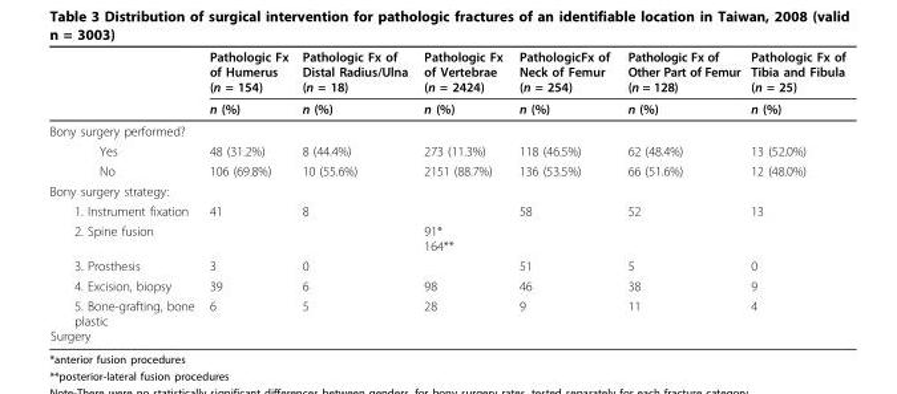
<table><thead><tr><td rowspan="2"></td><td rowspan="2">Pathologic Fx of Humerus (n = 154) n (%)</td><td rowspan="2">Pathologic Fx of Distal Radius/Ulna (n = 18) n (%)</td><td rowspan="2">Pathologic Fx of Vertebrae (n = 2424) n (%)</td><td rowspan="2">PathologicFx of Neck of Femur (n = 254) n (%)</td><td rowspan="2">Pathologic Fx of Other Part of Femur (n = 128) n (%)</td><td rowspan="2">Pathologic Fx of Tibia and Fibula (n = 25) n (%)</td></tr><tr></tr></thead><tbody><tr><td colspan="7">Bony surgery performed?</td></tr><tr><td>Yes</td><td>48 (31.2%)</td><td>8 (44.4%)</td><td>273 (11.3%)</td><td>118 (46.5%)</td><td>62 (48.4%)</td><td>13 (52.0%)</td></tr><tr><td>No</td><td>106 (69.8%)</td><td>10 (55.6%)</td><td>2151 (88.7%)</td><td>136 (53.5%)</td><td>66 (51.6%)</td><td>12 (48.0%)</td></tr><tr><td colspan="7">Bony surgery strategy:</td></tr><tr><td>1. Instrument fixation</td><td>41</td><td>8</td><td></td><td>58</td><td>52</td><td>13</td></tr><tr><td>2. Spine fusion</td><td></td><td></td><td>91* 164**</td><td></td><td></td><td></td></tr><tr><td>3. Prosthesis</td><td>3</td><td>0</td><td></td><td>51</td><td>5</td><td>0</td></tr><tr><td>4. Excision, biopsy</td><td>39</td><td>6</td><td>98</td><td>46</td><td>38</td><td>9</td></tr><tr><td>5. Bone-grafting, bone plastic Surgery</td><td>6</td><td>5</td><td>28</td><td>9</td><td>11</td><td>4</td></tr></tbody></table>